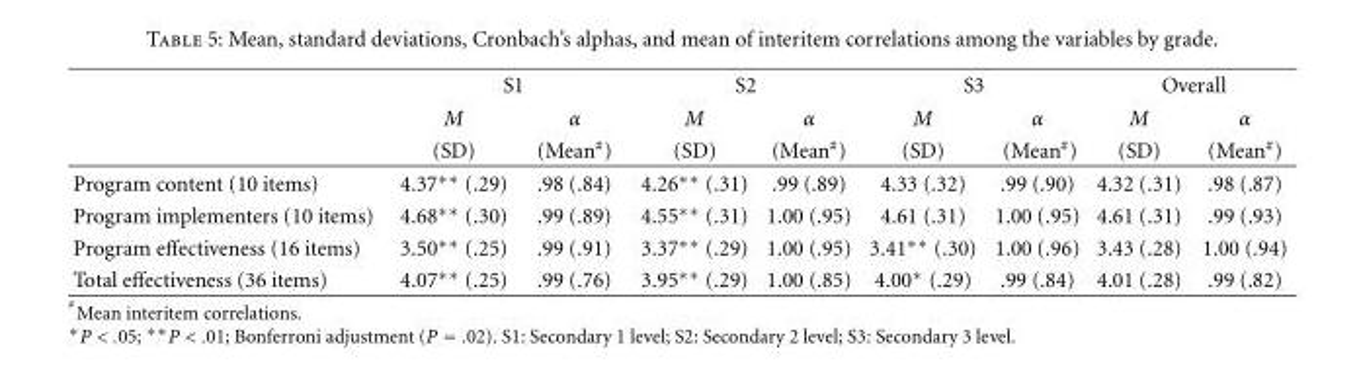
<table><thead><tr><td rowspan="3"></td><td colspan="2">S1</td><td colspan="2">S2</td><td colspan="2">S3</td><td colspan="2">Overall</td></tr><tr><td rowspan="2">M (SD)</td><td rowspan="2">α (Mean<sup>#</sup>)</td><td rowspan="2">M (SD)</td><td rowspan="2">α (Mean<sup>#</sup>)</td><td rowspan="2">M (SD)</td><td rowspan="2">α (Mean<sup>#</sup>)</td><td rowspan="2">M (SD)</td><td rowspan="2">α (Mean<sup>#</sup>)</td></tr><tr></tr></thead><tbody><tr><td>Program content (10 items)</td><td>4.37∗∗ (.29)</td><td>.98 (.84)</td><td>4.26∗∗ (.31)</td><td>.99 (.89)</td><td>4.33 (.32)</td><td>.99 (.90)</td><td>4.32 (.31)</td><td>.98 (.87)</td></tr><tr><td>Program implementers (10 items)</td><td>4.68∗∗ (.30)</td><td>.99 (.89)</td><td>4.55∗∗ (.31)</td><td>1.00 (.95)</td><td>4.61 (.31)</td><td>1.00 (.95)</td><td>4.61 (.31)</td><td>.99 (.93)</td></tr><tr><td>Program effectiveness (16 items)</td><td>3.50∗∗ (.25)</td><td>.99 (.91)</td><td>3.37∗∗ (.29)</td><td>1.00 (.95)</td><td>3.41∗∗ (.30)</td><td>1.00 (.96)</td><td>3.43 (.28)</td><td>1.00 (.94)</td></tr><tr><td>Total effectiveness (36 items)</td><td>4.07∗∗ (.25)</td><td>.99 (.76)</td><td>3.95∗∗ (.29)</td><td>1.00 (.85)</td><td>4.00∗ (.29)</td><td>.99 (.84)</td><td>4.01 (.28)</td><td>.99 (.82)</td></tr></tbody></table>